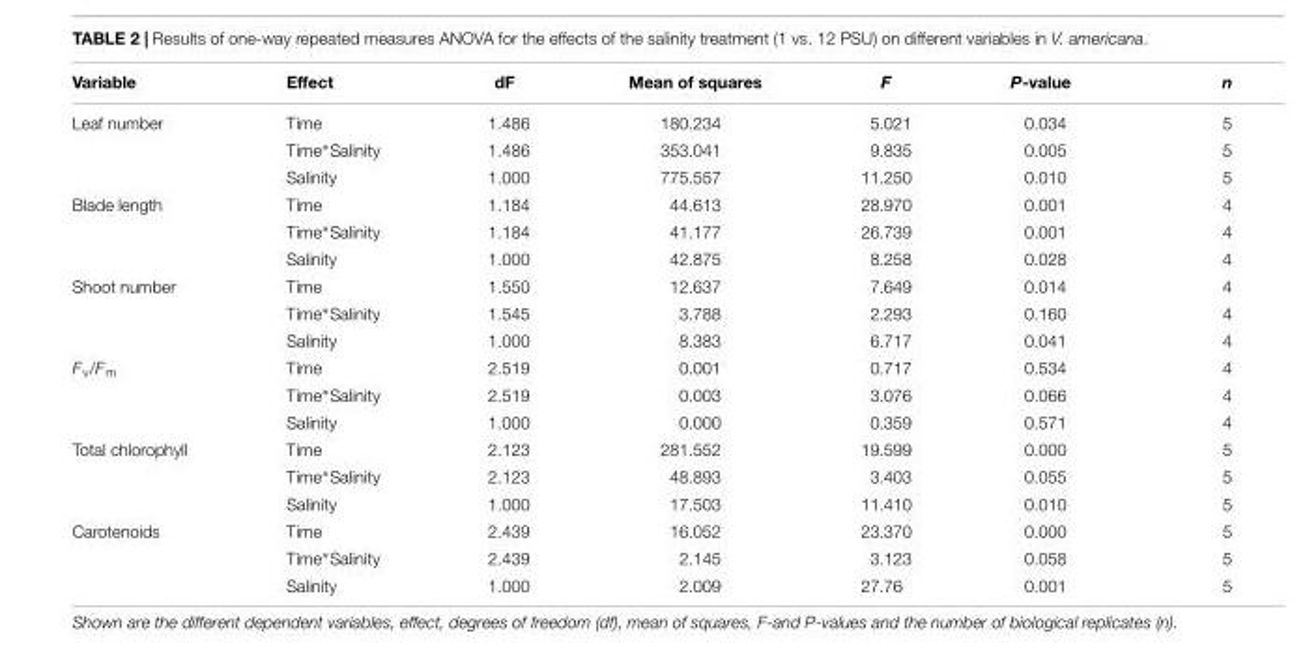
<table><thead><tr><td>Variable</td><td>Effect</td><td>dF</td><td>Mean of squares</td><td>F</td><td>P-value</td><td>n</td></tr></thead><tbody><tr><td rowspan="3">Leaf number</td><td>Time</td><td>1.486</td><td>180.234</td><td>5.021</td><td>0.034</td><td>5</td></tr><tr><td>Time∗Salinity</td><td>1.486</td><td>353.041</td><td>9.835</td><td>0.005</td><td>5</td></tr><tr><td>Salinity</td><td>1.000</td><td>775.557</td><td>11.250</td><td>0.010</td><td>5</td></tr><tr><td rowspan="3">Blade length</td><td>Time</td><td>1.184</td><td>44.613</td><td>28.970</td><td>0.001</td><td>4</td></tr><tr><td>Time∗Salinity</td><td>1.184</td><td>41.177</td><td>26.739</td><td>0.001</td><td>4</td></tr><tr><td>Salinity</td><td>1.000</td><td>42.875</td><td>8.258</td><td>0.028</td><td>4</td></tr><tr><td rowspan="3">Shoot number</td><td>Time</td><td>1.550</td><td>12.637</td><td>7.649</td><td>0.014</td><td>4</td></tr><tr><td>Time∗Salinity</td><td>1.545</td><td>3.788</td><td>2.293</td><td>0.160</td><td>4</td></tr><tr><td>Salinity</td><td>1.000</td><td>8.383</td><td>6.717</td><td>0.041</td><td>4</td></tr><tr><td rowspan="3">F<sub>v</sub>/F<sub>m</sub></td><td>Time</td><td>2.519</td><td>0.001</td><td>0.717</td><td>0.534</td><td>4</td></tr><tr><td>Time∗Salinity</td><td>2.519</td><td>0.003</td><td>3.076</td><td>0.066</td><td>4</td></tr><tr><td>Salinity</td><td>1.000</td><td>0.000</td><td>0.359</td><td>0.571</td><td>4</td></tr><tr><td rowspan="3">Total chlorophyll</td><td>Time</td><td>2.123</td><td>281.552</td><td>19.599</td><td>0.000</td><td>5</td></tr><tr><td>Time∗Salinity</td><td>2.123</td><td>48.893</td><td>3.403</td><td>0.055</td><td>5</td></tr><tr><td>Salinity</td><td>1.000</td><td>17.503</td><td>11.410</td><td>0.010</td><td>5</td></tr><tr><td rowspan="3">Carotenoids</td><td>Time</td><td>2.439</td><td>16.052</td><td>23.370</td><td>0.000</td><td>5</td></tr><tr><td>Time∗Salinity</td><td>2.439</td><td>2.145</td><td>3.123</td><td>0.058</td><td>5</td></tr><tr><td>Salinity</td><td>1.000</td><td>2.009</td><td>27.76</td><td>0.001</td><td>5</td></tr></tbody></table>